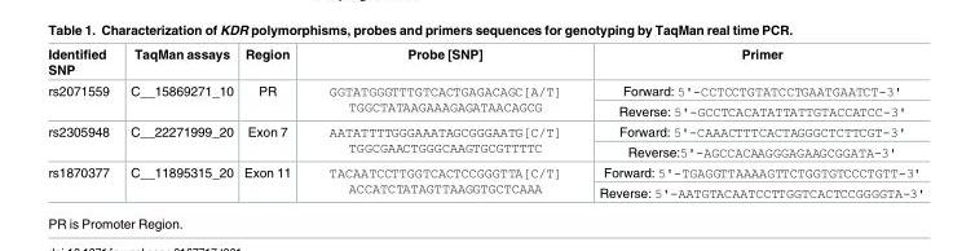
<table><thead><tr><td>Identified SNP</td><td>TaqMan assays</td><td>Region</td><td>Probe [SNP]</td><td>Primer</td></tr></thead><tbody><tr><td rowspan="2">rs2071559</td><td rowspan="2">C__15869271_10</td><td rowspan="2">PR</td><td rowspan="2">GGTATGGGTTTGTCACTGAGACAGC[A/T] TGGCTATAAGAAAGAGATAACAGCG</td><td>Forward: 5&#x27;-CCTCCTGTATCCTGAATGAATCT-3&#x27;</td></tr><tr><td>Reverse: 5&#x27;-GCCTCACATATTATTGTACCATCC-3&#x27;</td></tr><tr><td rowspan="2">rs2305948</td><td rowspan="2">C__22271999_20</td><td rowspan="2">Exon 7</td><td rowspan="2">AATATTTTGGGAAATAGCGGGAATG[C/T] TGGCGAACTGGGCAAGTGCGTTTTC</td><td>Forward: 5&#x27;-CAAACTTTCACTAGGGCTCTTCGT-3&#x27;</td></tr><tr><td>Reverse:5&#x27;-AGCCACAAGGGAGAAGCGGATA-3&#x27;</td></tr><tr><td rowspan="2">rs1870377</td><td rowspan="2">C__11895315_20</td><td rowspan="2">Exon 11</td><td rowspan="2">TACAATCCTTGGTCACTCCGGGTTA[C/T] ACCATCTATAGTTAAGGTGCTCAAA</td><td>Forward: 5&#x27;-TGAGGTTAAAAGTTCTGGTGTCCCTGTT-3&#x27;</td></tr><tr><td>Reverse: 5&#x27;-AATGTACAATCCTTGGTCACTCCGGGGTA-3&#x27;</td></tr></tbody></table>